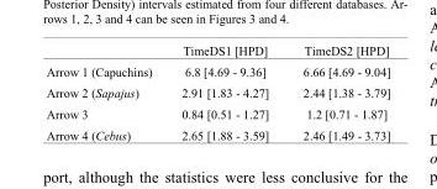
<table><thead><tr><td></td><td>TimeDS1 [HPD]</td><td>TimeDS2 [HPD]</td></tr></thead><tbody><tr><td>Arrow 1 (Capuchins)</td><td>6.8 [4.69 - 9.36]</td><td>6.66 [4.69 - 9.04]</td></tr><tr><td>Arrow 2 (Sapajus)</td><td>2.91 [1.83 - 4.27]</td><td>2.44 [1.38 - 3.79]</td></tr><tr><td>Arrow 3</td><td>0.84 [0.51 - 1.27]</td><td>1.2 [0.71 - 1.87]</td></tr><tr><td>Arrow 4 (Cebus)</td><td>2.65 [1.88 - 3.59]</td><td>2.46 [1.49 - 3.73]</td></tr></tbody></table>